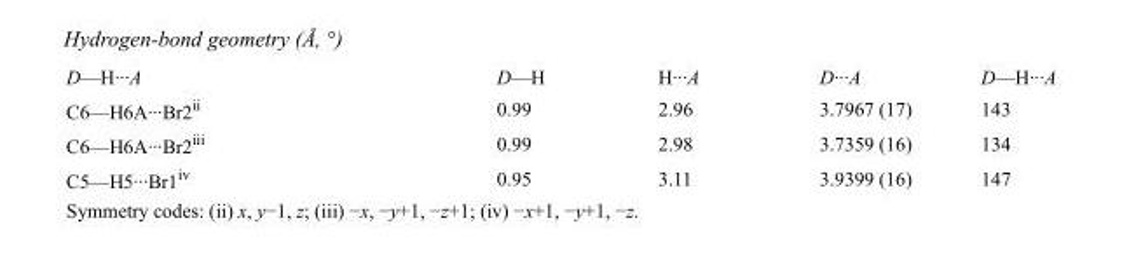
<table><tbody><tr><td>D—H···A</td><td>D—H</td><td>H···A</td><td>D···A</td><td>D—H···A</td></tr><tr><td>C6—H6A···Br2<sup>ii</sup></td><td>0.99</td><td>2.96</td><td>3.7967 (17)</td><td>143</td></tr><tr><td>C6—H6A···Br2<sup>iii</sup></td><td>0.99</td><td>2.98</td><td>3.7359 (16)</td><td>134</td></tr><tr><td>C5—H5···Br1<sup>iv</sup></td><td>0.95</td><td>3.11</td><td>3.9399 (16)</td><td>147</td></tr></tbody></table>